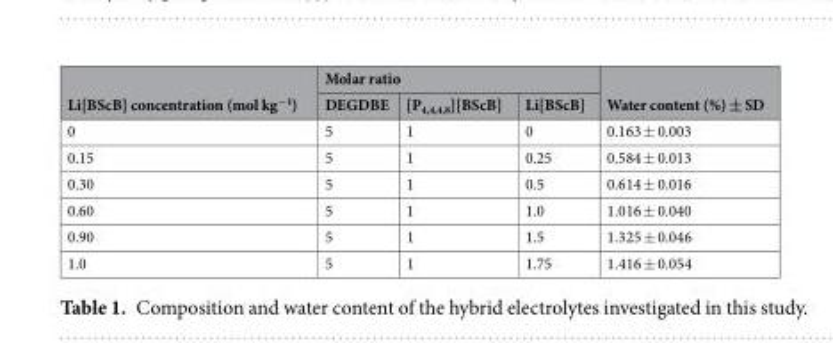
<table><thead><tr><td rowspan="2">Li[BScB] concentration (mol kg<sup>−1</sup>)</td><td colspan="3">Molar ratio</td><td rowspan="2">Water content (%) ± SD</td></tr><tr><td>DEGDBE</td><td>[P<sub>4,4,4,8</sub>][BScB]</td><td>Li[BScB]</td></tr></thead><tbody><tr><td>0</td><td>5</td><td>1</td><td>0</td><td>0.163 ± 0.003</td></tr><tr><td>0.15</td><td>5</td><td>1</td><td>0.25</td><td>0.584 ± 0.013</td></tr><tr><td>0.30</td><td>5</td><td>1</td><td>0.5</td><td>0.614 ± 0.016</td></tr><tr><td>0.60</td><td>5</td><td>1</td><td>1.0</td><td>1.016 ± 0.040</td></tr><tr><td>0.90</td><td>5</td><td>1</td><td>1.5</td><td>1.325 ± 0.046</td></tr><tr><td>1.0</td><td>5</td><td>1</td><td>1.75</td><td>1.416 ± 0.054</td></tr></tbody></table>